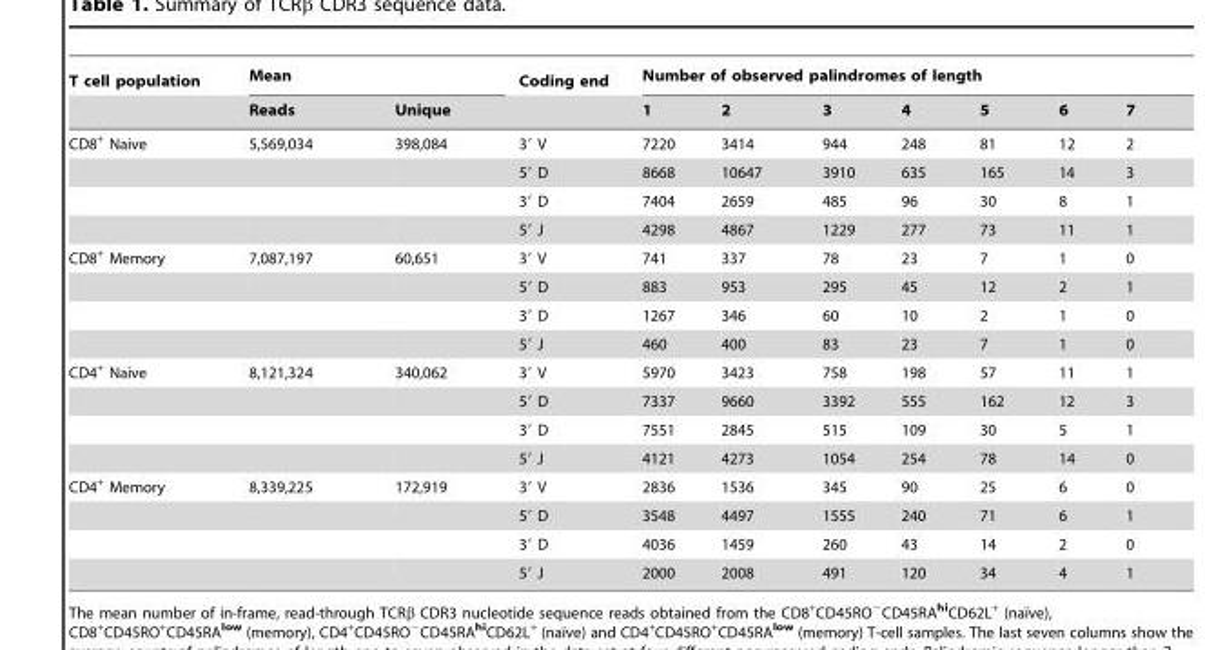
<table><thead><tr><td rowspan="2">T cell population</td><td colspan="2">Mean</td><td rowspan="2">Coding end</td><td colspan="7">Number of observed palindromes of length</td></tr><tr><td>Reads</td><td>Unique</td><td>1</td><td>2</td><td>3</td><td>4</td><td>5</td><td>6</td><td>7</td></tr></thead><tbody><tr><td rowspan="4">CD8<sup>+</sup> Naive</td><td>5,569,034</td><td>398,084</td><td>3′ V</td><td>7220</td><td>3414</td><td>944</td><td>248</td><td>81</td><td>12</td><td>2</td></tr><tr><td></td><td></td><td>5′ D</td><td>8668</td><td>10647</td><td>3910</td><td>635</td><td>165</td><td>14</td><td>3</td></tr><tr><td></td><td></td><td>3′ D</td><td>7404</td><td>2659</td><td>485</td><td>96</td><td>30</td><td>8</td><td>1</td></tr><tr><td></td><td></td><td>5′ J</td><td>4298</td><td>4867</td><td>1229</td><td>277</td><td>73</td><td>11</td><td>1</td></tr><tr><td rowspan="4">CD8<sup>+</sup> Memory</td><td>7,087,197</td><td>60,651</td><td>3′ V</td><td>741</td><td>337</td><td>78</td><td>23</td><td>7</td><td>1</td><td>0</td></tr><tr><td></td><td></td><td>5′ D</td><td>883</td><td>953</td><td>295</td><td>45</td><td>12</td><td>2</td><td>1</td></tr><tr><td></td><td></td><td>3′ D</td><td>1267</td><td>346</td><td>60</td><td>10</td><td>2</td><td>1</td><td>0</td></tr><tr><td></td><td></td><td>5′ J</td><td>460</td><td>400</td><td>83</td><td>23</td><td>7</td><td>1</td><td>0</td></tr><tr><td rowspan="4">CD4<sup>+</sup> Naive</td><td>8,121,324</td><td>340,062</td><td>3′ V</td><td>5970</td><td>3423</td><td>758</td><td>198</td><td>57</td><td>11</td><td>1</td></tr><tr><td></td><td></td><td>5′ D</td><td>7337</td><td>9660</td><td>3392</td><td>555</td><td>162</td><td>12</td><td>3</td></tr><tr><td></td><td></td><td>3′ D</td><td>7551</td><td>2845</td><td>515</td><td>109</td><td>30</td><td>5</td><td>1</td></tr><tr><td></td><td></td><td>5′ J</td><td>4121</td><td>4273</td><td>1054</td><td>254</td><td>78</td><td>14</td><td>0</td></tr><tr><td rowspan="4">CD4<sup>+</sup> Memory</td><td>8,339,225</td><td>172,919</td><td>3′ V</td><td>2836</td><td>1536</td><td>345</td><td>90</td><td>25</td><td>6</td><td>0</td></tr><tr><td></td><td></td><td>5′ D</td><td>3548</td><td>4497</td><td>1555</td><td>240</td><td>71</td><td>6</td><td>1</td></tr><tr><td></td><td></td><td>3′ D</td><td>4036</td><td>1459</td><td>260</td><td>43</td><td>14</td><td>2</td><td>0</td></tr><tr><td></td><td></td><td>5′ J</td><td>2000</td><td>2008</td><td>491</td><td>120</td><td>34</td><td>4</td><td>1</td></tr></tbody></table>